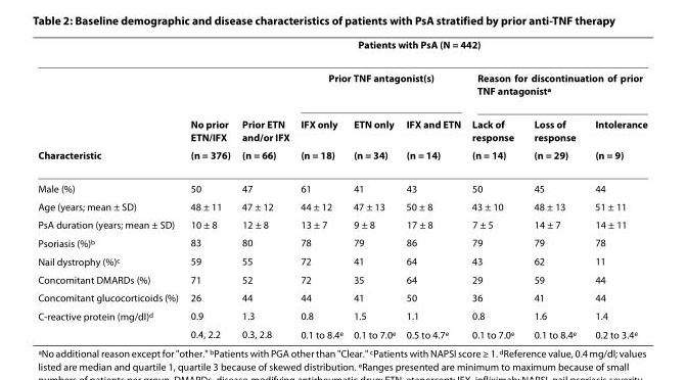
<table><thead><tr><td rowspan="3"></td><td colspan="8">Patients with PsA (N = 442)</td></tr><tr><td rowspan="2">No prior ETN/IFX</td><td rowspan="2">Prior ETN and/or IFX</td><td colspan="3">Prior TNF antagonist(s)</td><td colspan="3">Reason for discontinuation of prior TNF antagonist<sup>a</sup></td></tr><tr><td>IFX only</td><td>ETN only</td><td>IFX and ETN</td><td>Lack of response</td><td>Loss of response</td><td>Intolerance</td></tr></thead><tbody><tr><td>Characteristic</td><td>(n = 376)</td><td>(n = 66)</td><td>(n = 18)</td><td>(n = 34)</td><td>(n = 14)</td><td>(n = 14)</td><td>(n = 29)</td><td>(n = 9)</td></tr><tr><td>Male (%)</td><td>50</td><td>47</td><td>61</td><td>41</td><td>43</td><td>50</td><td>45</td><td>44</td></tr><tr><td>Age (years; mean ± SD)</td><td>48 ± 11</td><td>47 ± 12</td><td>44 ± 12</td><td>47 ± 13</td><td>50 ± 8</td><td>43 ± 10</td><td>48 ± 13</td><td>51 ± 11</td></tr><tr><td>PsA duration (years; mean ± SD)</td><td>10 ± 8</td><td>12 ± 8</td><td>13 ± 7</td><td>9 ± 8</td><td>17 ± 8</td><td>7 ± 5</td><td>14 ± 7</td><td>14 ± 11</td></tr><tr><td>Psoriasis (%)<sup>b</sup></td><td>83</td><td>80</td><td>78</td><td>79</td><td>86</td><td>79</td><td>79</td><td>78</td></tr><tr><td>Nail dystrophy (%)<sup>c</sup></td><td>59</td><td>55</td><td>72</td><td>41</td><td>64</td><td>43</td><td>62</td><td>11</td></tr><tr><td>Concomitant DMARDs (%)</td><td>71</td><td>52</td><td>72</td><td>35</td><td>64</td><td>29</td><td>59</td><td>44</td></tr><tr><td>Concomitant glucocorticoids (%)</td><td>26</td><td>44</td><td>44</td><td>41</td><td>50</td><td>36</td><td>41</td><td>44</td></tr><tr><td rowspan="2">C-reactive protein (mg/dl)<sup>d</sup></td><td>0.9</td><td>1.3</td><td>0.8</td><td>1.5</td><td>1.1</td><td>0.8</td><td>1.6</td><td>1.4</td></tr><tr><td>0.4, 2.2</td><td>0.3, 2.8</td><td>0.1 to 8.4<sup>e</sup></td><td>0.1 to 7.0<sup>e</sup></td><td>0.5 to 4.7<sup>e</sup></td><td>0.1 to 7.0<sup>e</sup></td><td>0.1 to 8.4<sup>e</sup></td><td>0.2 to 3.4<sup>e</sup></td></tr></tbody></table>